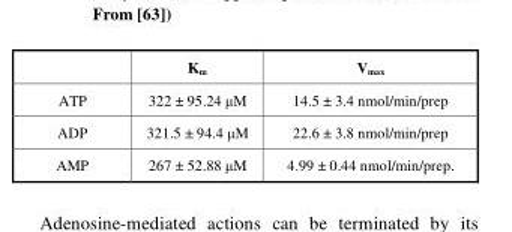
<table><thead><tr><td></td><td>K<sub>m</sub></td><td>V<sub>max</sub></td></tr></thead><tbody><tr><td>ATP</td><td>322 ± 95.24 μM</td><td>14.5 ± 3.4 nmol/min/prep</td></tr><tr><td>ADP</td><td>321.5 ± 94.4 μM</td><td>22.6 ± 3.8 nmol/min/prep</td></tr><tr><td>AMP</td><td>267 ± 52.88 μM</td><td>4.99 ± 0.44 nmol/min/prep.</td></tr></tbody></table>